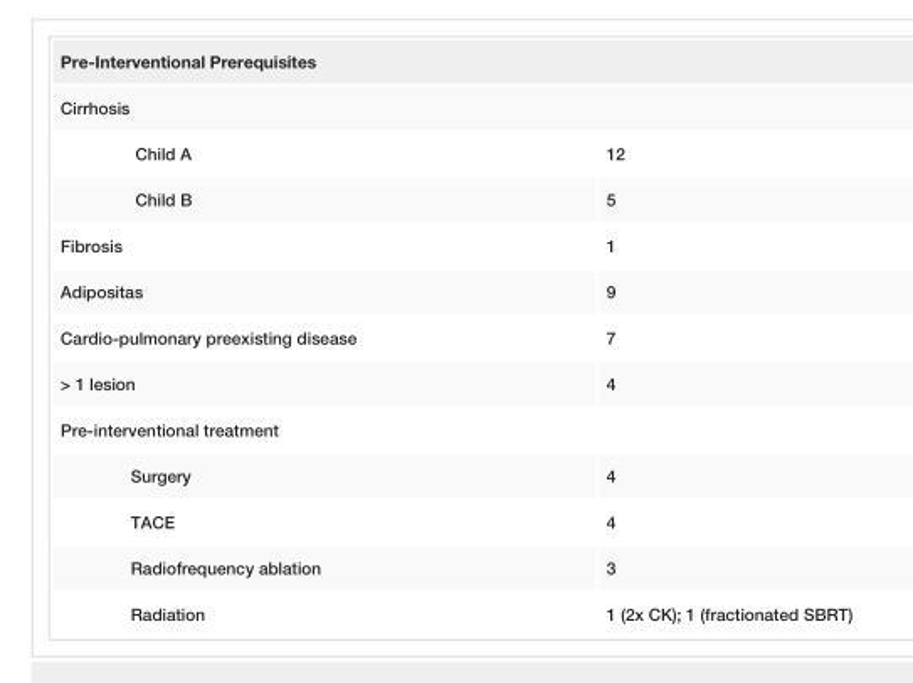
<table><tbody><tr><td colspan="2">Pre-Interventional Prerequisites</td></tr><tr><td colspan="2">Cirrhosis</td></tr><tr><td>Child A</td><td>12</td></tr><tr><td>Child B</td><td>5</td></tr><tr><td>Fibrosis</td><td>1</td></tr><tr><td>Adipositas</td><td>9</td></tr><tr><td>Cardio-pulmonary preexisting disease</td><td>7</td></tr><tr><td>&gt; 1 lesion</td><td>4</td></tr><tr><td colspan="2">Pre-interventional treatment</td></tr><tr><td>Surgery</td><td>4</td></tr><tr><td>TACE</td><td>4</td></tr><tr><td>Radiofrequency ablation</td><td>3</td></tr><tr><td>Radiation</td><td>1 (2x CK); 1 (fractionated SBRT)</td></tr></tbody></table>